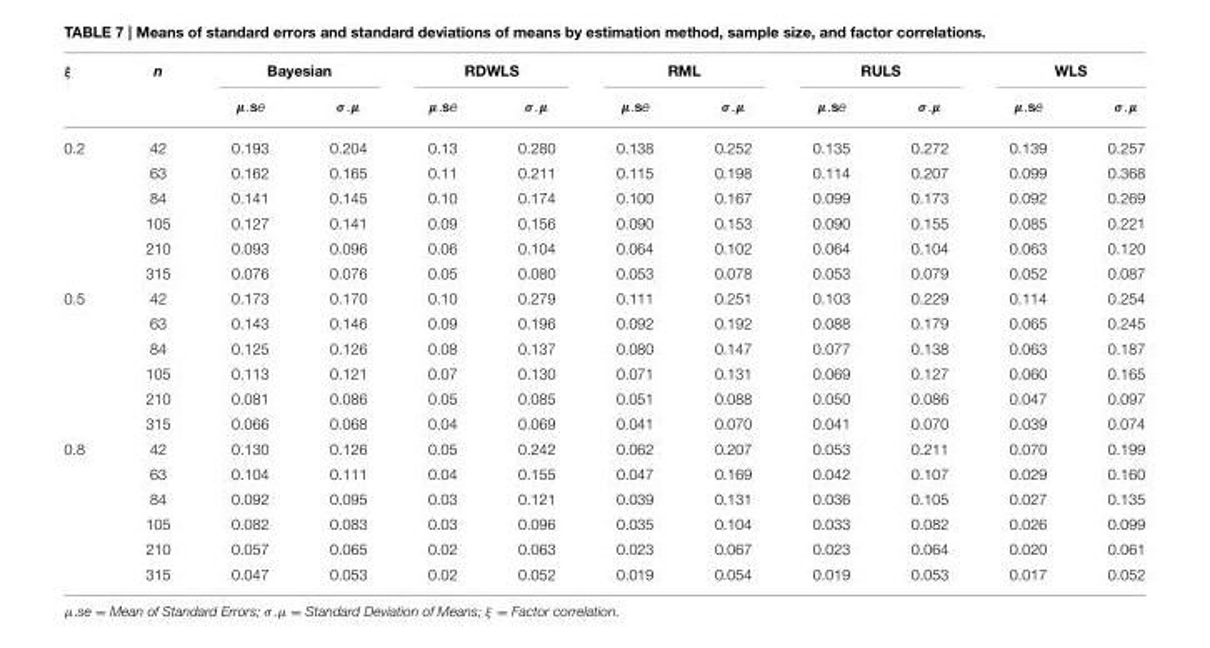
<table><thead><tr><td rowspan="2">ξ</td><td rowspan="2">n</td><td colspan="2">Bayesian</td><td colspan="2">RDWLS</td><td colspan="2">RML</td><td colspan="2">RULS</td><td colspan="2">WLS</td></tr><tr><td>µ.se</td><td>σ.µ</td><td>µ.se</td><td>σ.µ</td><td>µ.se</td><td>σ.µ</td><td>µ.se</td><td>σ.µ</td><td>µ.se</td><td>σ.µ</td></tr></thead><tbody><tr><td rowspan="6">0.2</td><td>42</td><td>0.193</td><td>0.204</td><td>0.13</td><td>0.280</td><td>0.138</td><td>0.252</td><td>0.135</td><td>0.272</td><td>0.139</td><td>0.257</td></tr><tr><td>63</td><td>0.162</td><td>0.165</td><td>0.11</td><td>0.211</td><td>0.115</td><td>0.198</td><td>0.114</td><td>0.207</td><td>0.099</td><td>0.368</td></tr><tr><td>84</td><td>0.141</td><td>0.145</td><td>0.10</td><td>0.174</td><td>0.100</td><td>0.167</td><td>0.099</td><td>0.173</td><td>0.092</td><td>0.269</td></tr><tr><td>105</td><td>0.127</td><td>0.141</td><td>0.09</td><td>0.156</td><td>0.090</td><td>0.153</td><td>0.090</td><td>0.155</td><td>0.085</td><td>0.221</td></tr><tr><td>210</td><td>0.093</td><td>0.096</td><td>0.06</td><td>0.104</td><td>0.064</td><td>0.102</td><td>0.064</td><td>0.104</td><td>0.063</td><td>0.120</td></tr><tr><td>315</td><td>0.076</td><td>0.076</td><td>0.05</td><td>0.080</td><td>0.053</td><td>0.078</td><td>0.053</td><td>0.079</td><td>0.052</td><td>0.087</td></tr><tr><td rowspan="6">0.5</td><td>42</td><td>0.173</td><td>0.170</td><td>0.10</td><td>0.279</td><td>0.111</td><td>0.251</td><td>0.103</td><td>0.229</td><td>0.114</td><td>0.254</td></tr><tr><td>63</td><td>0.143</td><td>0.146</td><td>0.09</td><td>0.196</td><td>0.092</td><td>0.192</td><td>0.088</td><td>0.179</td><td>0.065</td><td>0.245</td></tr><tr><td>84</td><td>0.125</td><td>0.126</td><td>0.08</td><td>0.137</td><td>0.080</td><td>0.147</td><td>0.077</td><td>0.138</td><td>0.063</td><td>0.187</td></tr><tr><td>105</td><td>0.113</td><td>0.121</td><td>0.07</td><td>0.130</td><td>0.071</td><td>0.131</td><td>0.069</td><td>0.127</td><td>0.060</td><td>0.165</td></tr><tr><td>210</td><td>0.081</td><td>0.086</td><td>0.05</td><td>0.085</td><td>0.051</td><td>0.088</td><td>0.050</td><td>0.086</td><td>0.047</td><td>0.097</td></tr><tr><td>315</td><td>0.066</td><td>0.068</td><td>0.04</td><td>0.069</td><td>0.041</td><td>0.070</td><td>0.041</td><td>0.070</td><td>0.039</td><td>0.074</td></tr><tr><td rowspan="6">0.8</td><td>42</td><td>0.130</td><td>0.126</td><td>0.05</td><td>0.242</td><td>0.062</td><td>0.207</td><td>0.053</td><td>0.211</td><td>0.070</td><td>0.199</td></tr><tr><td>63</td><td>0.104</td><td>0.111</td><td>0.04</td><td>0.155</td><td>0.047</td><td>0.169</td><td>0.042</td><td>0.107</td><td>0.029</td><td>0.160</td></tr><tr><td>84</td><td>0.092</td><td>0.095</td><td>0.03</td><td>0.121</td><td>0.039</td><td>0.131</td><td>0.036</td><td>0.105</td><td>0.027</td><td>0.135</td></tr><tr><td>105</td><td>0.082</td><td>0.083</td><td>0.03</td><td>0.096</td><td>0.035</td><td>0.104</td><td>0.033</td><td>0.082</td><td>0.026</td><td>0.099</td></tr><tr><td>210</td><td>0.057</td><td>0.065</td><td>0.02</td><td>0.063</td><td>0.023</td><td>0.067</td><td>0.023</td><td>0.064</td><td>0.020</td><td>0.061</td></tr><tr><td>315</td><td>0.047</td><td>0.053</td><td>0.02</td><td>0.052</td><td>0.019</td><td>0.054</td><td>0.019</td><td>0.053</td><td>0.017</td><td>0.052</td></tr></tbody></table>